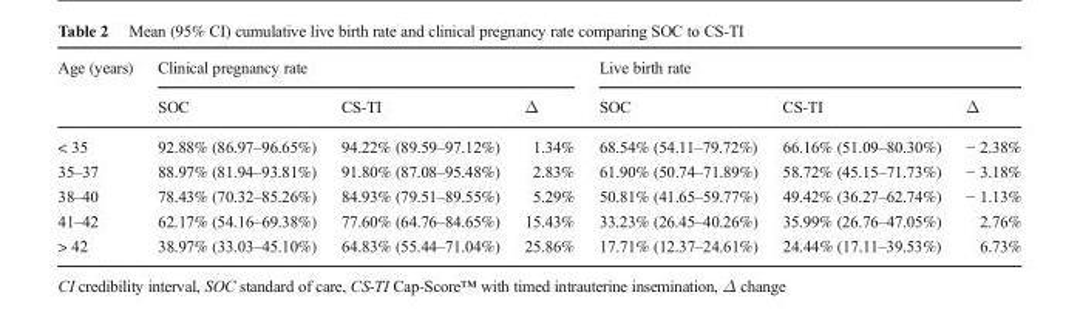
<table><thead><tr><td rowspan="2">Age (years)</td><td colspan="3">Clinical pregnancy rate</td><td colspan="3">Live birth rate</td></tr><tr><td>SOC</td><td>CS-TI</td><td>Δ</td><td>SOC</td><td>CS-TI</td><td>Δ</td></tr></thead><tbody><tr><td>&lt; 35</td><td>92.88% (86.97–96.65%)</td><td>94.22% (89.59–97.12%)</td><td>1.34%</td><td>68.54% (54.11–79.72%)</td><td>66.16% (51.09–80.30%)</td><td>− 2.38%</td></tr><tr><td>35–37</td><td>88.97% (81.94–93.81%)</td><td>91.80% (87.08–95.48%)</td><td>2.83%</td><td>61.90% (50.74–71.89%)</td><td>58.72% (45.15–71.73%)</td><td>− 3.18%</td></tr><tr><td>38–40</td><td>78.43% (70.32–85.26%)</td><td>84.93% (79.51–89.55%)</td><td>5.29%</td><td>50.81% (41.65–59.77%)</td><td>49.42% (36.27–62.74%)</td><td>− 1.13%</td></tr><tr><td>41–42</td><td>62.17% (54.16–69.38%)</td><td>77.60% (64.76–84.65%)</td><td>15.43%</td><td>33.23% (26.45–40.26%)</td><td>35.99% (26.76–47.05%)</td><td>2.76%</td></tr><tr><td>&gt; 42</td><td>38.97% (33.03–45.10%)</td><td>64.83% (55.44–71.04%)</td><td>25.86%</td><td>17.71% (12.37–24.61%)</td><td>24.44% (17.11–39.53%)</td><td>6.73%</td></tr></tbody></table>